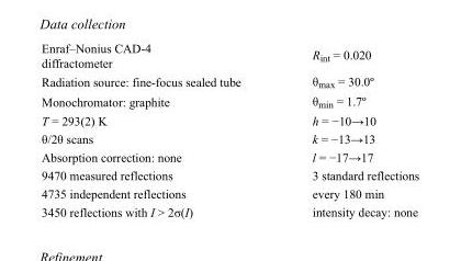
<table><tbody><tr><td>Enraf–Nonius CAD-4 diffractometer</td><td>R<sub>int</sub> = 0.020</td></tr><tr><td>Radiation source: fine-focus sealed tube</td><td>θ<sub>max</sub> = 30.0º</td></tr><tr><td>Monochromator: graphite</td><td>θ<sub>min</sub> = 1.7º</td></tr><tr><td>T = 293(2) K</td><td>h = −10→10</td></tr><tr><td>θ/2θ scans</td><td>k = −13→13</td></tr><tr><td>Absorption correction: none</td><td>l = −17→17</td></tr><tr><td>9470 measured reflections</td><td>3 standard reflections</td></tr><tr><td>4735 independent reflections</td><td>every 180 min</td></tr><tr><td>3450 reflections with I &gt; 2σ(I)</td><td>intensity decay: none</td></tr></tbody></table>